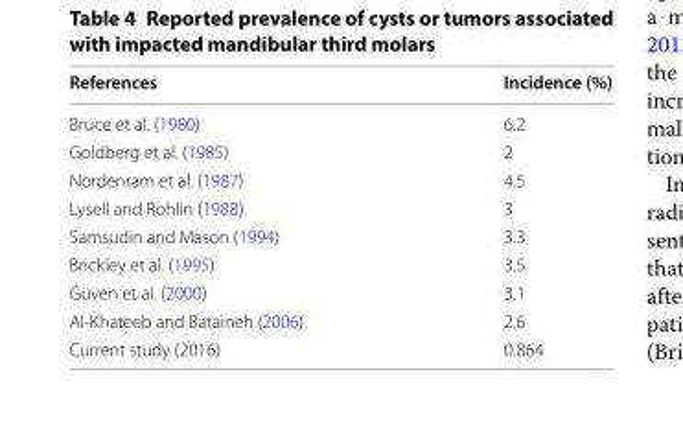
<table><thead><tr><td>References</td><td>Incidence (%)</td></tr></thead><tbody><tr><td>Bruce et al. (1980)</td><td>6.2</td></tr><tr><td>Goldberg et al. (1985)</td><td>2</td></tr><tr><td>Nordenram et al. (1987)</td><td>4.5</td></tr><tr><td>Lysell and Rohlin (1988)</td><td>3</td></tr><tr><td>Samsudin and Mason (1994)</td><td>3.3</td></tr><tr><td>Brickley et al. (1995)</td><td>3.5</td></tr><tr><td>Güven et al. (2000)</td><td>3.1</td></tr><tr><td>Al‑Khateeb and Bataineh (2006)</td><td>2.6</td></tr><tr><td>Current study (2016)</td><td>0.864</td></tr></tbody></table>